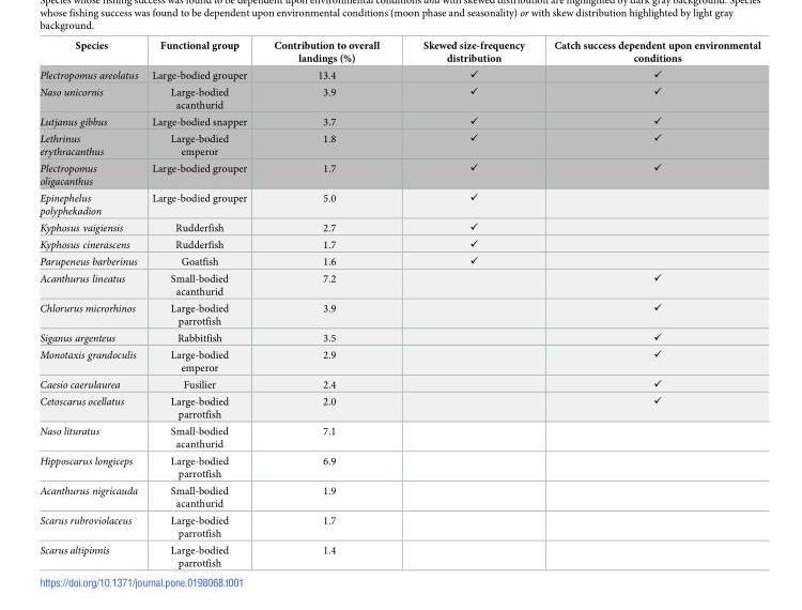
<table><thead><tr><td>Species</td><td>Functional group</td><td>Contribution to overall landings (%)</td><td>Skewed size-frequency distribution</td><td>Catch success dependent upon environmental conditions</td></tr></thead><tbody><tr><td>Plectropomus areolatus</td><td>Large-bodied grouper</td><td>13.4</td><td>✓</td><td>✓</td></tr><tr><td>Naso unicornis</td><td>Large-bodied acanthurid</td><td>3.9</td><td>✓</td><td>✓</td></tr><tr><td>Lutjanus gibbus</td><td>Large-bodied snapper</td><td>3.7</td><td>✓</td><td>✓</td></tr><tr><td>Lethrinus erythracanthus</td><td>Large-bodied emperor</td><td>1.8</td><td>✓</td><td>✓</td></tr><tr><td>Plectropomus oligacanthus</td><td>Large-bodied grouper</td><td>1.7</td><td>✓</td><td>✓</td></tr><tr><td>Epinephelus polyphekadion</td><td>Large-bodied grouper</td><td>5.0</td><td>✓</td><td></td></tr><tr><td>Kyphosus vaigiensis</td><td>Rudderfish</td><td>2.7</td><td>✓</td><td></td></tr><tr><td>Kyphosus cinerascens</td><td>Rudderfish</td><td>1.7</td><td>✓</td><td></td></tr><tr><td>Parupeneus barberinus</td><td>Goatfish</td><td>1.6</td><td>✓</td><td></td></tr><tr><td>Acanthurus lineatus</td><td>Small-bodied acanthurid</td><td>7.2</td><td></td><td>✓</td></tr><tr><td>Chlorurus microrhinos</td><td>Large-bodied parrotfish</td><td>3.9</td><td></td><td>✓</td></tr><tr><td>Siganus argenteus</td><td>Rabbitfish</td><td>3.5</td><td></td><td>✓</td></tr><tr><td>Monotaxis grandoculis</td><td>Large-bodied emperor</td><td>2.9</td><td></td><td>✓</td></tr><tr><td>Caesio caerulaurea</td><td>Fusilier</td><td>2.4</td><td></td><td>✓</td></tr><tr><td>Cetoscarus ocellatus</td><td>Large-bodied parrotfish</td><td>2.0</td><td></td><td>✓</td></tr><tr><td>Naso lituratus</td><td>Small-bodied acanthurid</td><td>7.1</td><td></td><td></td></tr><tr><td>Hipposcarus longiceps</td><td>Large-bodied parrotfish</td><td>6.9</td><td></td><td></td></tr><tr><td>Acanthurus nigricauda</td><td>Small-bodied acanthurid</td><td>1.9</td><td></td><td></td></tr><tr><td>Scarus rubroviolaceus</td><td>Large-bodied parrotfish</td><td>1.7</td><td></td><td></td></tr><tr><td>Scarus altipinnis</td><td>Large-bodied parrotfish</td><td>1.4</td><td></td><td></td></tr></tbody></table>